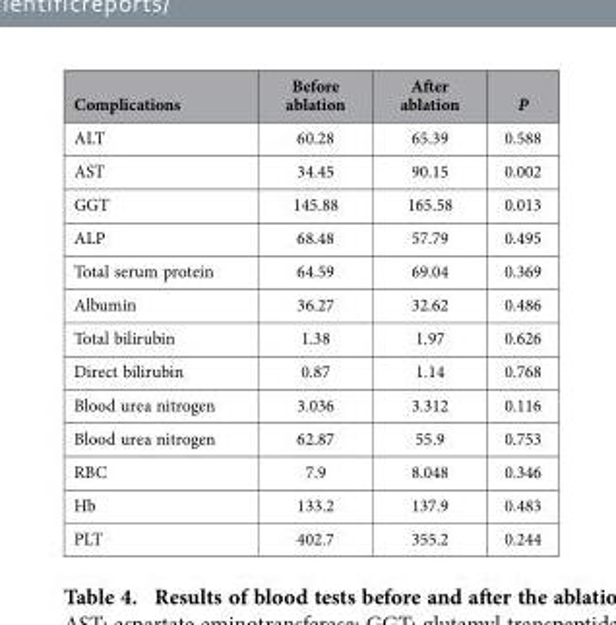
<table><thead><tr><td>Complications</td><td>Before ablation</td><td>After ablation</td><td>P</td></tr></thead><tbody><tr><td>ALT</td><td>60.28</td><td>65.39</td><td>0.588</td></tr><tr><td>AST</td><td>34.45</td><td>90.15</td><td>0.002</td></tr><tr><td>GGT</td><td>145.88</td><td>165.58</td><td>0.013</td></tr><tr><td>ALP</td><td>68.48</td><td>57.79</td><td>0.495</td></tr><tr><td>Total serum protein</td><td>64.59</td><td>69.04</td><td>0.369</td></tr><tr><td>Albumin</td><td>36.27</td><td>32.62</td><td>0.486</td></tr><tr><td>Total bilirubin</td><td>1.38</td><td>1.97</td><td>0.626</td></tr><tr><td>Direct bilirubin</td><td>0.87</td><td>1.14</td><td>0.768</td></tr><tr><td>Blood urea nitrogen</td><td>3.036</td><td>3.312</td><td>0.116</td></tr><tr><td>Blood urea nitrogen</td><td>62.87</td><td>55.9</td><td>0.753</td></tr><tr><td>RBC</td><td>7.9</td><td>8.048</td><td>0.346</td></tr><tr><td>Hb</td><td>133.2</td><td>137.9</td><td>0.483</td></tr><tr><td>PLT</td><td>402.7</td><td>355.2</td><td>0.244</td></tr></tbody></table>